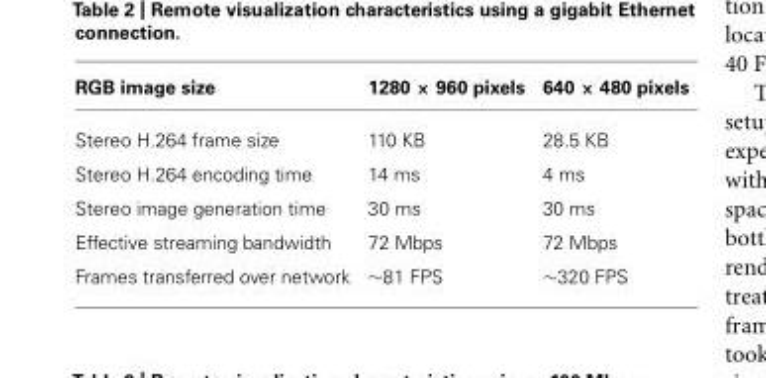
<table><thead><tr><td>RGB image size</td><td>1280 × 960 pixels</td><td>640 × 480 pixels</td></tr></thead><tbody><tr><td>Stereo H.264 frame size</td><td>110 KB</td><td>28.5 KB</td></tr><tr><td>Stereo H.264 encoding time</td><td>14 ms</td><td>4 ms</td></tr><tr><td>Stereo image generation time</td><td>30 ms</td><td>30 ms</td></tr><tr><td>Effective streaming bandwidth</td><td>72 Mbps</td><td>72 Mbps</td></tr><tr><td>Frames transferred over network</td><td>∼81 FPS</td><td>∼320 FPS</td></tr></tbody></table>